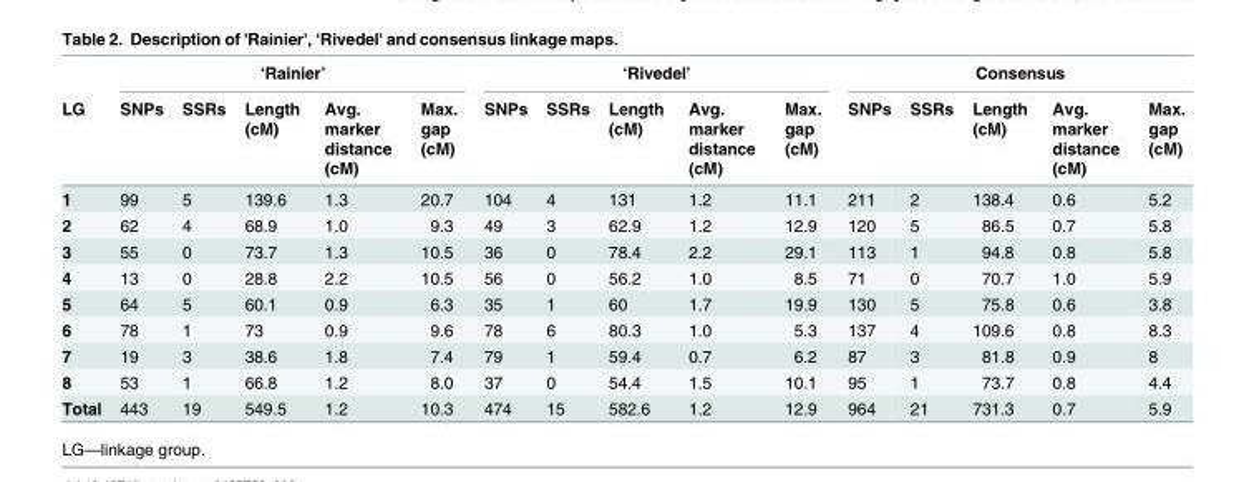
<table><thead><tr><td rowspan="2">LG</td><td colspan="5">‘Rainier’</td><td colspan="5">‘Rivedel’</td><td colspan="5">Consensus</td></tr><tr><td>SNPs</td><td>SSRs</td><td>Length (cM)</td><td>Avg. marker distance (cM)</td><td>Max. gap (cM)</td><td>SNPs</td><td>SSRs</td><td>Length (cM)</td><td>Avg. marker distance (cM)</td><td>Max. gap (cM)</td><td>SNPs</td><td>SSRs</td><td>Length (cM)</td><td>Avg. marker distance (cM)</td><td>Max. gap (cM)</td></tr></thead><tbody><tr><td>1</td><td>99</td><td>5</td><td>139.6</td><td>1.3</td><td>20.7</td><td>104</td><td>4</td><td>131</td><td>1.2</td><td>11.1</td><td>211</td><td>2</td><td>138.4</td><td>0.6</td><td>5.2</td></tr><tr><td>2</td><td>62</td><td>4</td><td>68.9</td><td>1.0</td><td>9.3</td><td>49</td><td>3</td><td>62.9</td><td>1.2</td><td>12.9</td><td>120</td><td>5</td><td>86.5</td><td>0.7</td><td>5.8</td></tr><tr><td>3</td><td>55</td><td>0</td><td>73.7</td><td>1.3</td><td>10.5</td><td>36</td><td>0</td><td>78.4</td><td>2.2</td><td>29.1</td><td>113</td><td>1</td><td>94.8</td><td>0.8</td><td>5.8</td></tr><tr><td>4</td><td>13</td><td>0</td><td>28.8</td><td>2.2</td><td>10.5</td><td>56</td><td>0</td><td>56.2</td><td>1.0</td><td>8.5</td><td>71</td><td>0</td><td>70.7</td><td>1.0</td><td>5.9</td></tr><tr><td>5</td><td>64</td><td>5</td><td>60.1</td><td>0.9</td><td>6.3</td><td>35</td><td>1</td><td>60</td><td>1.7</td><td>19.9</td><td>130</td><td>5</td><td>75.8</td><td>0.6</td><td>3.8</td></tr><tr><td>6</td><td>78</td><td>1</td><td>73</td><td>0.9</td><td>9.6</td><td>78</td><td>6</td><td>80.3</td><td>1.0</td><td>5.3</td><td>137</td><td>4</td><td>109.6</td><td>0.8</td><td>8.3</td></tr><tr><td>7</td><td>19</td><td>3</td><td>38.6</td><td>1.8</td><td>7.4</td><td>79</td><td>1</td><td>59.4</td><td>0.7</td><td>6.2</td><td>87</td><td>3</td><td>81.8</td><td>0.9</td><td>8</td></tr><tr><td>8</td><td>53</td><td>1</td><td>66.8</td><td>1.2</td><td>8.0</td><td>37</td><td>0</td><td>54.4</td><td>1.5</td><td>10.1</td><td>95</td><td>1</td><td>73.7</td><td>0.8</td><td>4.4</td></tr><tr><td>Total</td><td>443</td><td>19</td><td>549.5</td><td>1.2</td><td>10.3</td><td>474</td><td>15</td><td>582.6</td><td>1.2</td><td>12.9</td><td>964</td><td>21</td><td>731.3</td><td>0.7</td><td>5.9</td></tr></tbody></table>